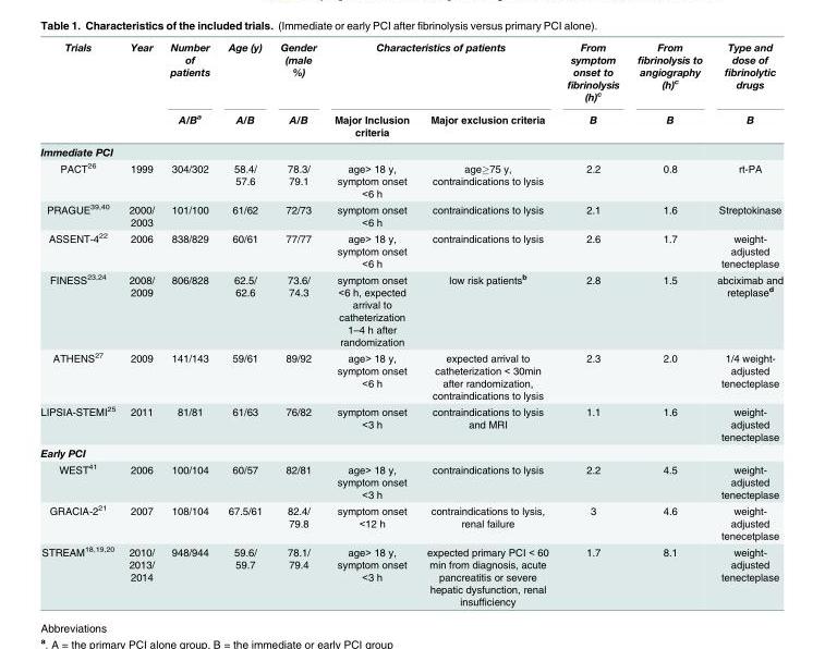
<table><thead><tr><td rowspan="2">Trials</td><td rowspan="2">Year</td><td rowspan="2">Number of patients A/B<sup>a</sup></td><td rowspan="2">Age (y) A/B</td><td rowspan="2">Gender (male %) A/B</td><td colspan="2">Characteristics of patients</td><td rowspan="2">From symptom onset to fibrinolysis (h)<sup>c</sup> B</td><td rowspan="2">From fibrinolysis to angiography (h)<sup>c</sup> B</td><td rowspan="2">Type and dose of fibrinolytic drugs B</td></tr><tr><td>Major Inclusion criteria</td><td>Major exclusion criteria</td></tr></thead><tbody><tr><td colspan="10">Immediate PCI</td></tr><tr><td>PACT<sup>26</sup></td><td>1999</td><td>304/302</td><td>58.4/ 57.6</td><td>78.3/ 79.1</td><td>age&gt; 18 y, symptom onset &lt;6 h</td><td>age≥75 y, contraindications to lysis</td><td>2.2</td><td>0.8</td><td>rt-PA</td></tr><tr><td>PRAGUE<sup>39,40</sup></td><td>2000/ 2003</td><td>101/100</td><td>61/62</td><td>72/73</td><td>symptom onset &lt;6 h</td><td>contraindications to lysis</td><td>2.1</td><td>1.6</td><td>Streptokinase</td></tr><tr><td>ASSENT-4<sup>22</sup></td><td>2006</td><td>838/829</td><td>60/61</td><td>77/77</td><td>age&gt; 18 y, symptom onset &lt;6 h</td><td>contraindications to lysis</td><td>2.6</td><td>1.7</td><td>weight- adjusted tenecteplase</td></tr><tr><td>FINESS<sup>23,24</sup></td><td>2008/ 2009</td><td>806/828</td><td>62.5/ 62.6</td><td>73.6/ 74.3</td><td>symptom onset &lt;6 h, expected arrival to catheterization 1–4 h after randomization</td><td>low risk patients<sup>b</sup></td><td>2.8</td><td>1.5</td><td>abciximab and reteplase<sup>d</sup></td></tr><tr><td>ATHENS<sup>27</sup></td><td>2009</td><td>141/143</td><td>59/61</td><td>89/92</td><td>age&gt; 18 y, symptom onset &lt;6 h</td><td>expected arrival to catheterization &lt; 30min after randomization, contraindications to lysis</td><td>2.3</td><td>2.0</td><td>1/4 weight- adjusted tenecteplase</td></tr><tr><td>LIPSIA-STEMI<sup>25</sup></td><td>2011</td><td>81/81</td><td>61/63</td><td>76/82</td><td>symptom onset &lt;3 h</td><td>contraindications to lysis and MRI</td><td>1.1</td><td>1.6</td><td>weight- adjusted tenecteplase</td></tr><tr><td colspan="10">Early PCI</td></tr><tr><td>WEST<sup>41</sup></td><td>2006</td><td>100/104</td><td>60/57</td><td>82/81</td><td>age&gt; 18 y, symptom onset &lt;3 h</td><td>contraindications to lysis</td><td>2.2</td><td>4.5</td><td>weight- adjusted tenecteplase</td></tr><tr><td>GRACIA-2<sup>21</sup></td><td>2007</td><td>108/104</td><td>67.5/61</td><td>82.4/ 79.8</td><td>symptom onset &lt;12 h</td><td>contraindications to lysis, renal failure</td><td>3</td><td>4.6</td><td>weight- adjusted tenecetplase</td></tr><tr><td>STREAM<sup>18,19,20</sup></td><td>2010/ 2013/ 2014</td><td>948/944</td><td>59.6/ 59.7</td><td>78.1/ 79.4</td><td>age&gt; 18 y, symptom onset &lt;3 h</td><td>expected primary PCI &lt; 60 min from diagnosis, acute pancreatitis or severe hepatic dysfunction, renal insufficiency</td><td>1.7</td><td>8.1</td><td>weight- adjusted tenecteplase</td></tr></tbody></table>